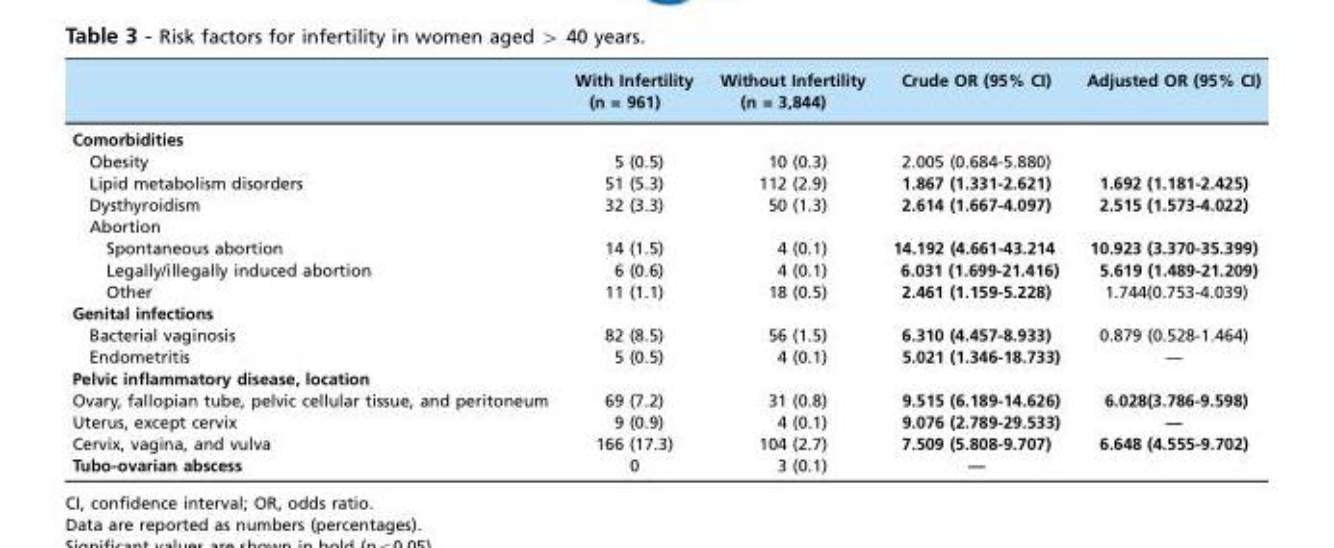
<table><thead><tr><td></td><td>With Infertility (n = 961)</td><td>Without Infertility (n = 3,844)</td><td>Crude OR (95% CI)</td><td>Adjusted OR (95% CI)</td></tr></thead><tbody><tr><td colspan="5">Comorbidities</td></tr><tr><td>Obesity</td><td>5 (0.5)</td><td>10 (0.3)</td><td>2.005 (0.684-5.880)</td><td></td></tr><tr><td>Lipid metabolism disorders</td><td>51 (5.3)</td><td>112 (2.9)</td><td>1.867 (1.331-2.621)</td><td>1.692 (1.181-2.425)</td></tr><tr><td>Dysthyroidism</td><td>32 (3.3)</td><td>50 (1.3)</td><td>2.614 (1.667-4.097)</td><td>2.515 (1.573-4.022)</td></tr><tr><td colspan="5">Abortion</td></tr><tr><td>Spontaneous abortion</td><td>14 (1.5)</td><td>4 (0.1)</td><td>14.192 (4.661-43.214</td><td>10.923 (3.370-35.399)</td></tr><tr><td>Legally/illegally induced abortion</td><td>6 (0.6)</td><td>4 (0.1)</td><td>6.031 (1.699-21.416)</td><td>5.619 (1.489-21.209)</td></tr><tr><td>Other</td><td>11 (1.1)</td><td>18 (0.5)</td><td>2.461 (1.159-5.228)</td><td>1.744(0.753-4.039)</td></tr><tr><td colspan="5">Genital infections</td></tr><tr><td>Bacterial vaginosis</td><td>82 (8.5)</td><td>56 (1.5)</td><td>6.310 (4.457-8.933)</td><td>0.879 (0.528-1.464)</td></tr><tr><td>Endometritis</td><td>5 (0.5)</td><td>4 (0.1)</td><td>5.021 (1.346-18.733)</td><td>—</td></tr><tr><td colspan="5">Pelvic inflammatory disease, location</td></tr><tr><td>Ovary, fallopian tube, pelvic cellular tissue, and peritoneum</td><td>69 (7.2)</td><td>31 (0.8)</td><td>9.515 (6.189-14.626)</td><td>6.028(3.786-9.598)</td></tr><tr><td>Uterus, except cervix</td><td>9 (0.9)</td><td>4 (0.1)</td><td>9.076 (2.789-29.533)</td><td>—</td></tr><tr><td>Cervix, vagina, and vulva</td><td>166 (17.3)</td><td>104 (2.7)</td><td>7.509 (5.808-9.707)</td><td>6.648 (4.555-9.702)</td></tr><tr><td>Tubo-ovarian abscess</td><td>0</td><td>3 (0.1)</td><td>—</td><td></td></tr></tbody></table>